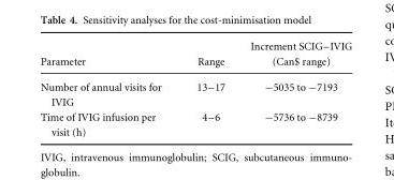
<table><thead><tr><td>Parameter</td><td>Range</td><td>Increment SCIG–IVIG (Can$ range)</td></tr></thead><tbody><tr><td>Number of annual visits for IVIG</td><td>13–17</td><td>−5035 to −7193</td></tr><tr><td>Time of IVIG infusion per visit (h)</td><td>4–6</td><td>−5736 to −8739</td></tr></tbody></table>